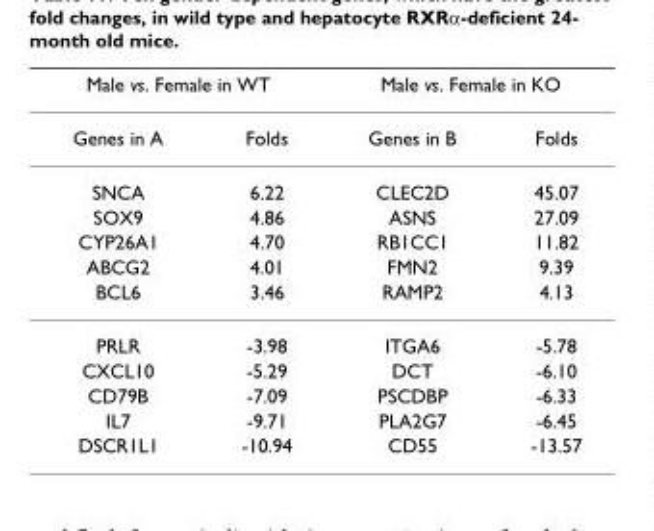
<table><thead><tr><td colspan="2">Male vs. Female in WT</td><td colspan="2">Male vs. Female in KO</td></tr><tr><td>Genes in A</td><td>Folds</td><td>Genes in B</td><td>Folds</td></tr></thead><tbody><tr><td>SNCA</td><td>6.22</td><td>CLEC2D</td><td>45.07</td></tr><tr><td>SOX9</td><td>4.86</td><td>ASNS</td><td>27.09</td></tr><tr><td>CYP26A1</td><td>4.70</td><td>RB1CC1</td><td>11.82</td></tr><tr><td>ABCG2</td><td>4.01</td><td>FMN2</td><td>9.39</td></tr><tr><td>BCL6</td><td>3.46</td><td>RAMP2</td><td>4.13</td></tr><tr><td>PRLR</td><td>-3.98</td><td>ITGA6</td><td>-5.78</td></tr><tr><td>CXCL10</td><td>-5.29</td><td>DCT</td><td>-6.10</td></tr><tr><td>CD79B</td><td>-7.09</td><td>PSCDBP</td><td>-6.33</td></tr><tr><td>IL7</td><td>-9.71</td><td>PLA2G7</td><td>-6.45</td></tr><tr><td>DSCR1L1</td><td>-10.94</td><td>CD55</td><td>-13.57</td></tr></tbody></table>